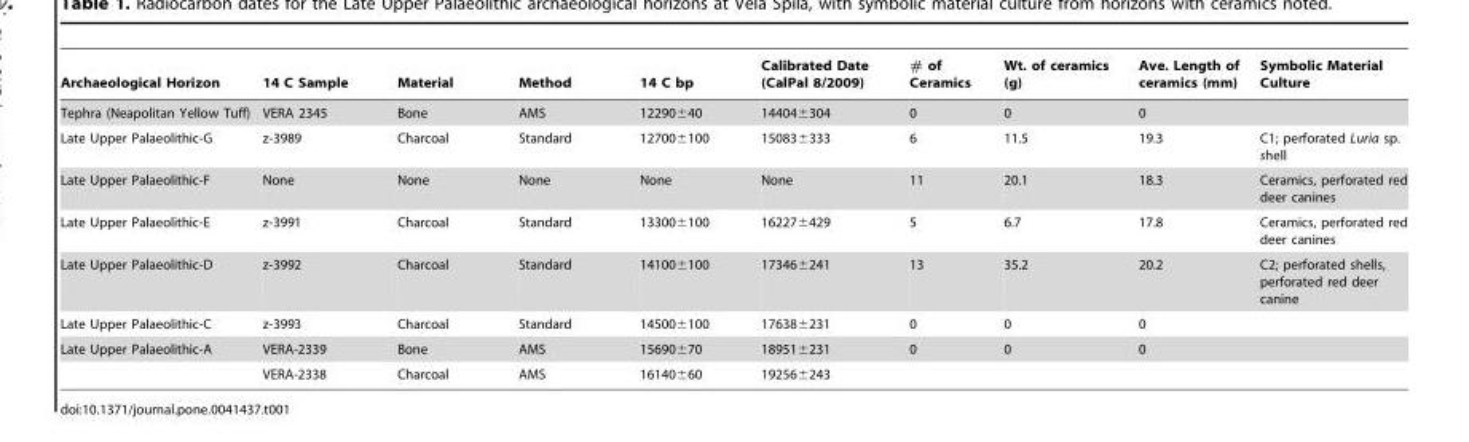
<table><thead><tr><td>Archaeological Horizon</td><td>14 C Sample</td><td>Material</td><td>Method</td><td>14 C bp</td><td>Calibrated Date (CalPal 8/2009)</td><td># of Ceramics</td><td>Wt. of ceramics (g)</td><td>Ave. Length of ceramics (mm)</td><td>Symbolic Material Culture</td></tr></thead><tbody><tr><td>Tephra (Neapolitan Yellow Tuff)</td><td>VERA 2345</td><td>Bone</td><td>AMS</td><td>12290±40</td><td>14404±304</td><td>0</td><td>0</td><td>0</td><td></td></tr><tr><td>Late Upper Palaeolithic-G</td><td>z-3989</td><td>Charcoal</td><td>Standard</td><td>12700±100</td><td>15083±333</td><td>6</td><td>11.5</td><td>19.3</td><td>C1; perforated Luria sp. shell</td></tr><tr><td>Late Upper Palaeolithic-F</td><td>None</td><td>None</td><td>None</td><td>None</td><td>None</td><td>11</td><td>20.1</td><td>18.3</td><td>Ceramics, perforated red deer canines</td></tr><tr><td>Late Upper Palaeolithic-E</td><td>z-3991</td><td>Charcoal</td><td>Standard</td><td>13300±100</td><td>16227±429</td><td>5</td><td>6.7</td><td>17.8</td><td>Ceramics, perforated red deer canines</td></tr><tr><td>Late Upper Palaeolithic-D</td><td>z-3992</td><td>Charcoal</td><td>Standard</td><td>14100±100</td><td>17346±241</td><td>13</td><td>35.2</td><td>20.2</td><td>C2; perforated shells, perforated red deer canine</td></tr><tr><td>Late Upper Palaeolithic-C</td><td>z-3993</td><td>Charcoal</td><td>Standard</td><td>14500±100</td><td>17638±231</td><td>0</td><td>0</td><td>0</td><td></td></tr><tr><td rowspan="2">Late Upper Palaeolithic-A</td><td>VERA-2339</td><td>Bone</td><td>AMS</td><td>15690±70</td><td>18951±231</td><td>0</td><td>0</td><td>0</td><td></td></tr><tr><td>VERA-2338</td><td>Charcoal</td><td>AMS</td><td>16140±60</td><td>19256±243</td><td></td><td></td><td></td><td></td></tr></tbody></table>